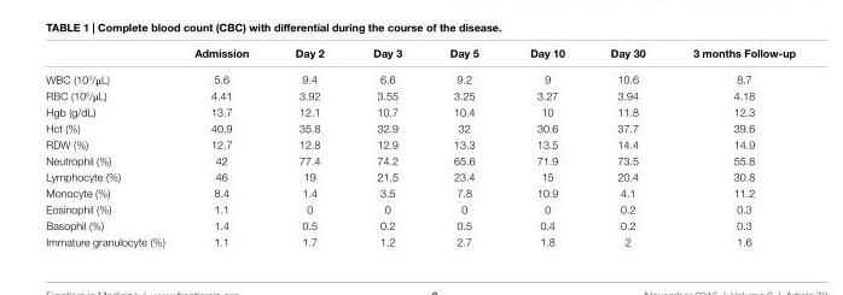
<table><thead><tr><td></td><td>admission</td><td>Day 2</td><td>Day 3</td><td>Day 5</td><td>Day 10</td><td>Day 30</td><td>3 months Follow-up</td></tr></thead><tbody><tr><td>WBC (10<sup>3</sup>/μL)</td><td>5.6</td><td>9.4</td><td>6.6</td><td>9.2</td><td>9</td><td>10.6</td><td>8.7</td></tr><tr><td>RBC (10<sup>6</sup>/μL)</td><td>4.41</td><td>3.92</td><td>3.55</td><td>3.25</td><td>3.27</td><td>3.94</td><td>4.18</td></tr><tr><td>Hgb (g/dL)</td><td>13.7</td><td>12.1</td><td>10.7</td><td>10.4</td><td>10</td><td>11.8</td><td>12.3</td></tr><tr><td>Hct (%)</td><td>40.9</td><td>35.8</td><td>32.9</td><td>32</td><td>30.6</td><td>37.7</td><td>39.6</td></tr><tr><td>RDW (%)</td><td>12.7</td><td>12.8</td><td>12.9</td><td>13.3</td><td>13.5</td><td>14.4</td><td>14.9</td></tr><tr><td>Neutrophil (%)</td><td>42</td><td>77.4</td><td>74.2</td><td>65.6</td><td>71.9</td><td>73.5</td><td>55.8</td></tr><tr><td>Lymphocyte (%)</td><td>46</td><td>19</td><td>21.5</td><td>23.4</td><td>15</td><td>20.4</td><td>30.8</td></tr><tr><td>Monocyte (%)</td><td>8.4</td><td>1.4</td><td>3.5</td><td>7.8</td><td>10.9</td><td>4.1</td><td>11.2</td></tr><tr><td>Eosinophil (%)</td><td>1.1</td><td>0</td><td>0</td><td>0</td><td>0</td><td>0.2</td><td>0.3</td></tr><tr><td>Basophil (%)</td><td>1.4</td><td>0.5</td><td>0.2</td><td>0.5</td><td>0.4</td><td>0.2</td><td>0.3</td></tr><tr><td>Immature granulocyte (%)</td><td>1.1</td><td>1.7</td><td>1.2</td><td>2.7</td><td>1.8</td><td>2</td><td>1.6</td></tr></tbody></table>